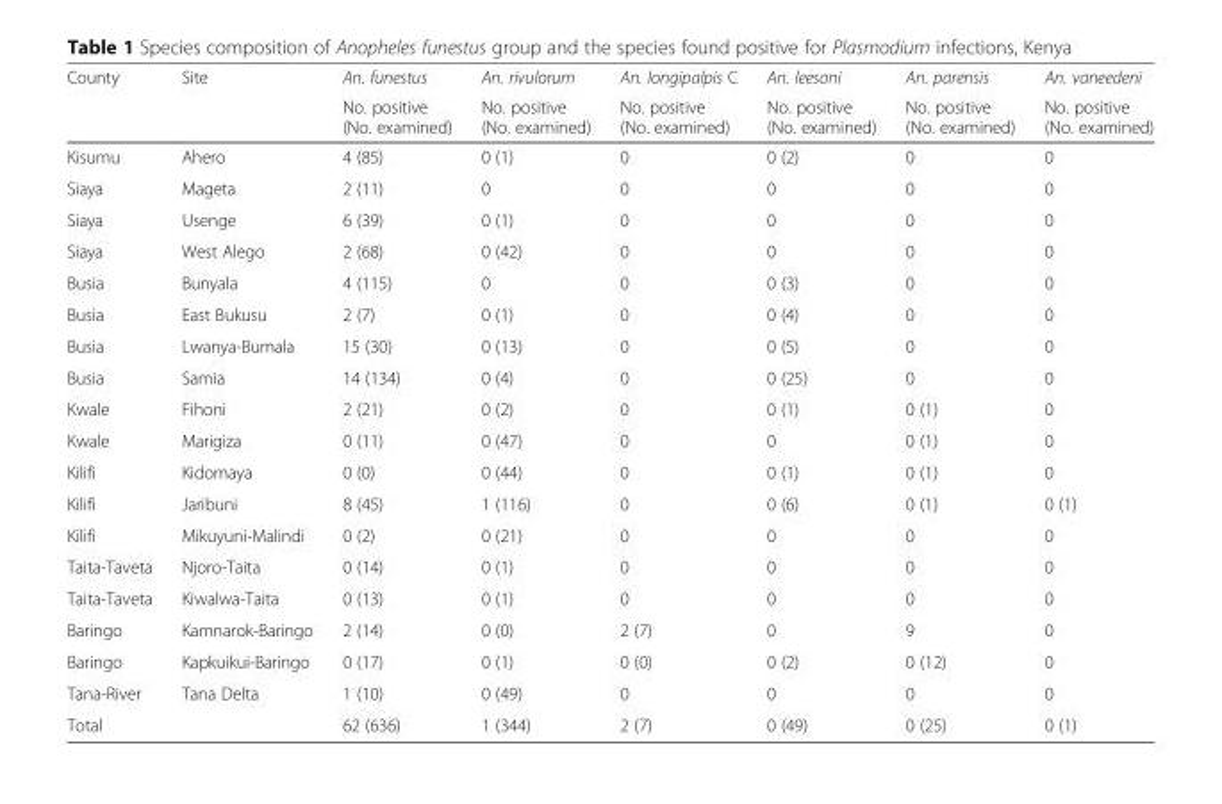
<table><thead><tr><td rowspan="2">County</td><td rowspan="2">Site</td><td rowspan="2">An. funestus No. positive (No. examined)</td><td rowspan="2">An. rivulorum No. positive (No. examined)</td><td rowspan="2">An. longipalpis C No. positive (No. examined)</td><td rowspan="2">An. leesoni No. positive (No. examined)</td><td rowspan="2">An. parensis No. positive (No. examined)</td><td rowspan="2">An. vaneedeni No. positive (No. examined)</td></tr><tr></tr></thead><tbody><tr><td>Kisumu</td><td>Ahero</td><td>4 (85)</td><td>0 (1)</td><td>0</td><td>0 (2)</td><td>0</td><td>0</td></tr><tr><td>Siaya</td><td>Mageta</td><td>2 (11)</td><td>0</td><td>0</td><td>0</td><td>0</td><td>0</td></tr><tr><td>Siaya</td><td>Usenge</td><td>6 (39)</td><td>0 (1)</td><td>0</td><td>0</td><td>0</td><td>0</td></tr><tr><td>Siaya</td><td>West Alego</td><td>2 (68)</td><td>0 (42)</td><td>0</td><td>0</td><td>0</td><td>0</td></tr><tr><td>Busia</td><td>Bunyala</td><td>4 (115)</td><td>0</td><td>0</td><td>0 (3)</td><td>0</td><td>0</td></tr><tr><td>Busia</td><td>East Bukusu</td><td>2 (7)</td><td>0 (1)</td><td>0</td><td>0 (4)</td><td>0</td><td>0</td></tr><tr><td>Busia</td><td>Lwanya-Bumala</td><td>15 (30)</td><td>0 (13)</td><td>0</td><td>0 (5)</td><td>0</td><td>0</td></tr><tr><td>Busia</td><td>Samia</td><td>14 (134)</td><td>0 (4)</td><td>0</td><td>0 (25)</td><td>0</td><td>0</td></tr><tr><td>Kwale</td><td>Fihoni</td><td>2 (21)</td><td>0 (2)</td><td>0</td><td>0 (1)</td><td>0 (1)</td><td>0</td></tr><tr><td>Kwale</td><td>Marigiza</td><td>0 (11)</td><td>0 (47)</td><td>0</td><td>0</td><td>0 (1)</td><td>0</td></tr><tr><td>Kilifi</td><td>Kidomaya</td><td>0 (0)</td><td>0 (44)</td><td>0</td><td>0 (1)</td><td>0 (1)</td><td>0</td></tr><tr><td>Kilifi</td><td>Jaribuni</td><td>8 (45)</td><td>1 (116)</td><td>0</td><td>0 (6)</td><td>0 (1)</td><td>0 (1)</td></tr><tr><td>Kilifi</td><td>Mikuyuni-Malindi</td><td>0 (2)</td><td>0 (21)</td><td>0</td><td>0</td><td>0</td><td>0</td></tr><tr><td>Taita-Taveta</td><td>Njoro-Taita</td><td>0 (14)</td><td>0 (1)</td><td>0</td><td>0</td><td>0</td><td>0</td></tr><tr><td>Taita-Taveta</td><td>Kiwalwa-Taita</td><td>0 (13)</td><td>0 (1)</td><td>0</td><td>0</td><td>0</td><td>0</td></tr><tr><td>Baringo</td><td>Kamnarok-Baringo</td><td>2 (14)</td><td>0 (0)</td><td>2 (7)</td><td>0</td><td>9</td><td>0</td></tr><tr><td>Baringo</td><td>Kapkuikui-Baringo</td><td>0 (17)</td><td>0 (1)</td><td>0 (0)</td><td>0 (2)</td><td>0 (12)</td><td>0</td></tr><tr><td>Tana-River</td><td>Tana Delta</td><td>1 (10)</td><td>0 (49)</td><td>0</td><td>0</td><td>0</td><td>0</td></tr><tr><td>Total</td><td></td><td>62 (636)</td><td>1 (344)</td><td>2 (7)</td><td>0 (49)</td><td>0 (25)</td><td>0 (1)</td></tr></tbody></table>